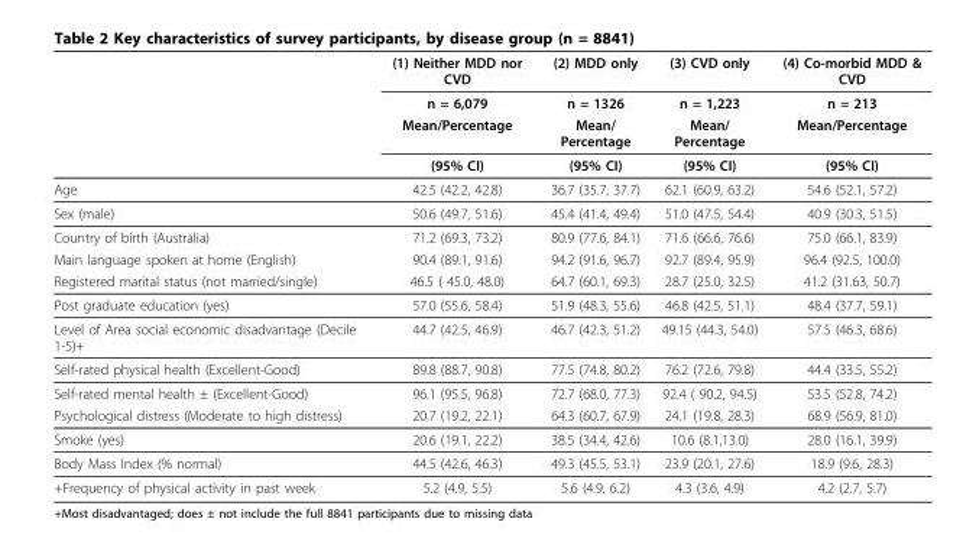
<table><thead><tr><td rowspan="4"></td><td rowspan="4">(1) Neither MDD nor CVD n = 6,079 Mean/Percentage (95% CI)</td><td rowspan="4">(2) MDD only n = 1326 Mean/ Percentage (95% CI)</td><td rowspan="4">(3) CVD only n = 1,223 Mean/ Percentage (95% CI)</td><td rowspan="4">(4) Co-morbid MDD &amp; CVD n = 213 Mean/Percentage (95% CI)</td></tr><tr></tr><tr></tr><tr></tr></thead><tbody><tr><td>Age</td><td>42.5 (42.2, 42.8)</td><td>36.7 (35.7, 37.7)</td><td>62.1 (60.9, 63.2)</td><td>54.6 (52.1, 57.2)</td></tr><tr><td>Sex (male)</td><td>50.6 (49.7, 51.6)</td><td>45.4 (41.4, 49.4)</td><td>51.0 (47.5, 54.4)</td><td>40.9 (30.3, 51.5)</td></tr><tr><td>Country of birth (Australia)</td><td>71.2 (69.3, 73.2)</td><td>80.9 (77.6, 84.1)</td><td>71.6 (66.6, 76.6)</td><td>75.0 (66.1, 83.9)</td></tr><tr><td>Main language spoken at home (English)</td><td>90.4 (89.1, 91.6)</td><td>94.2 (91.6, 96.7)</td><td>92.7 (89.4, 95.9)</td><td>96.4 (92.5, 100.0)</td></tr><tr><td>Registered marital status (not married/single)</td><td>46.5 ( 45.0, 48.0)</td><td>64.7 (60.1, 69.3)</td><td>28.7 (25.0, 32.5)</td><td>41.2 (31.63, 50.7)</td></tr><tr><td>Post graduate education (yes)</td><td>57.0 (55.6, 58.4)</td><td>51.9 (48.3, 55.6)</td><td>46.8 (42.5, 51.1)</td><td>48.4 (37.7, 59.1)</td></tr><tr><td>Level of Area social economic disadvantage (Decile 1-5)+</td><td>44.7 (42.5, 46.9)</td><td>46.7 (42.3, 51.2)</td><td>49.15 (44.3, 54.0)</td><td>57.5 (46.3, 68.6)</td></tr><tr><td>Self-rated physical health (Excellent-Good)</td><td>89.8 (88.7, 90.8)</td><td>77.5 (74.8, 80.2)</td><td>76.2 (72.6, 79.8)</td><td>44.4 (33.5, 55.2)</td></tr><tr><td>Self-rated mental health ± (Excellent-Good)</td><td>96.1 (95.5, 96.8)</td><td>72.7 (68.0, 77.3)</td><td>92.4 ( 90.2, 94.5)</td><td>53.5 (52.8, 74.2)</td></tr><tr><td>Psychological distress (Moderate to high distress)</td><td>20.7 (19.2, 22.1)</td><td>64.3 (60.7, 67.9)</td><td>24.1 (19.8, 28.3)</td><td>68.9 (56.9, 81.0)</td></tr><tr><td>Smoke (yes)</td><td>20.6 (19.1, 22.2)</td><td>38.5 (34.4, 42.6)</td><td>10.6 (8.1,13.0)</td><td>28.0 (16.1, 39.9)</td></tr><tr><td>Body Mass Index (% normal)</td><td>44.5 (42.6, 46.3)</td><td>49.3 (45.5, 53.1)</td><td>23.9 (20.1, 27.6)</td><td>18.9 (9.6, 28.3)</td></tr><tr><td>+Frequency of physical activity in past week</td><td>5.2 (4.9, 5.5)</td><td>5.6 (4.9, 6.2)</td><td>4.3 (3.6, 4.9)</td><td>4.2 (2.7, 5.7)</td></tr></tbody></table>